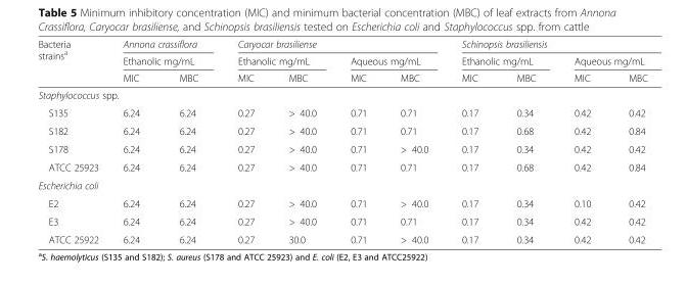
<table><thead><tr><td rowspan="3">Bacteria strains<sup>a</sup></td><td rowspan="2" colspan="2">Annona crassiflora Ethanolic mg/mL</td><td colspan="4">Caryocar brasiliense</td><td colspan="4">Schinopsis brasiliensis</td></tr><tr><td colspan="2">Ethanolic mg/mL</td><td colspan="2">Aqueous mg/mL</td><td colspan="2">Ethanolic mg/mL</td><td colspan="2">Aqueous mg/mL</td></tr><tr><td>MIC</td><td>MBC</td><td>MIC</td><td>MBC</td><td>MIC</td><td>MBC</td><td>MIC</td><td>MBC</td><td>MIC</td><td>MBC</td></tr></thead><tbody><tr><td colspan="11">Staphylococcus spp.</td></tr><tr><td>S135</td><td>6.24</td><td>6.24</td><td>0.27</td><td>&gt; 40.0</td><td>0.71</td><td>0.71</td><td>0.17</td><td>0.34</td><td>0.42</td><td>0.42</td></tr><tr><td>S182</td><td>6.24</td><td>6.24</td><td>0.27</td><td>&gt; 40.0</td><td>0.71</td><td>0.71</td><td>0.17</td><td>0.68</td><td>0.42</td><td>0.84</td></tr><tr><td>S178</td><td>6.24</td><td>6.24</td><td>0.27</td><td>&gt; 40.0</td><td>0.71</td><td>&gt; 40.0</td><td>0.17</td><td>0.34</td><td>0.42</td><td>0.42</td></tr><tr><td>ATCC 25923</td><td>6.24</td><td>6.24</td><td>0.27</td><td>&gt; 40.0</td><td>0.71</td><td>0.71</td><td>0.17</td><td>0.68</td><td>0.42</td><td>0.84</td></tr><tr><td colspan="11">Escherichia coli</td></tr><tr><td>E2</td><td>6.24</td><td>6.24</td><td>0.27</td><td>&gt; 40.0</td><td>0.71</td><td>&gt; 40.0</td><td>0.17</td><td>0.34</td><td>0.10</td><td>0.42</td></tr><tr><td>E3</td><td>6.24</td><td>6.24</td><td>0.27</td><td>&gt; 40.0</td><td>0.71</td><td>0.71</td><td>0.17</td><td>0.34</td><td>0.42</td><td>0.42</td></tr><tr><td>ATCC 25922</td><td>6.24</td><td>6.24</td><td>0.27</td><td>30.0</td><td>0.71</td><td>&gt; 40.0</td><td>0.17</td><td>0.34</td><td>0.42</td><td>0.42</td></tr></tbody></table>